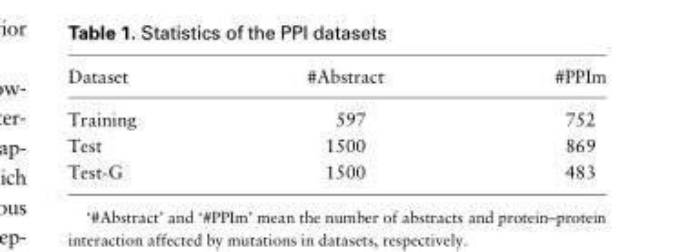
<table><thead><tr><td>Dataset</td><td>#Abstract</td><td>#PPIm</td></tr></thead><tbody><tr><td>Training</td><td>597</td><td>752</td></tr><tr><td>Test</td><td>1500</td><td>869</td></tr><tr><td>Test-G</td><td>1500</td><td>483</td></tr></tbody></table>